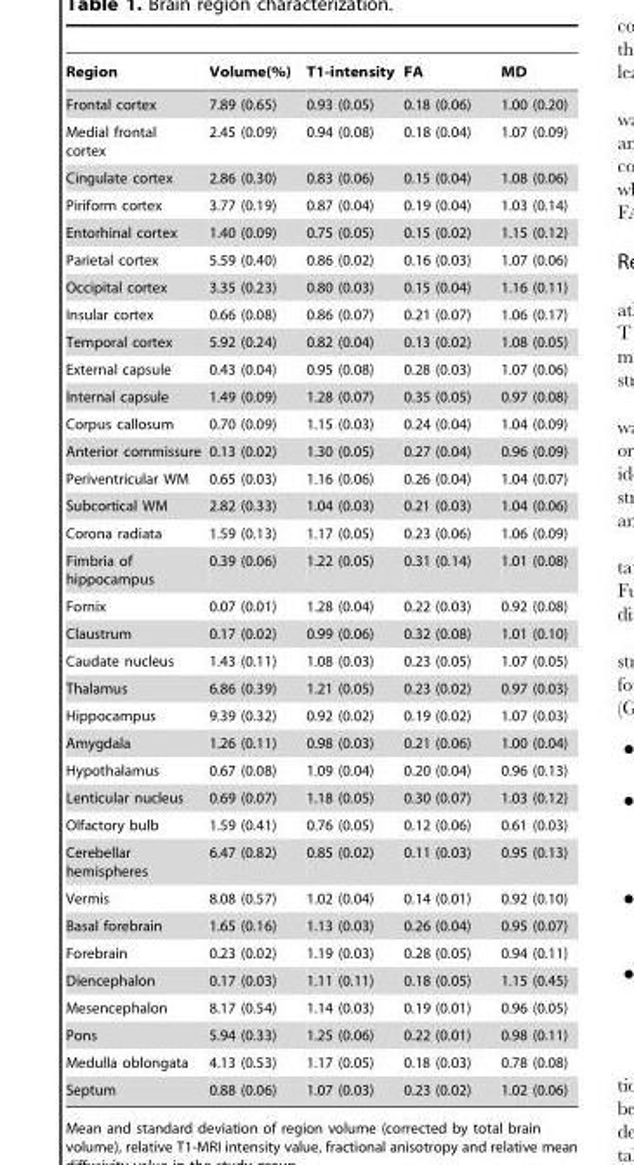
<table><thead><tr><td>Region</td><td>Volume(%)</td><td>T1-intensity</td><td>FA</td><td>MD</td></tr></thead><tbody><tr><td>Frontal cortex</td><td>7.89 (0.65)</td><td>0.93 (0.05)</td><td>0.18 (0.06)</td><td>1.00 (0.20)</td></tr><tr><td>Medial frontal cortex</td><td>2.45 (0.09)</td><td>0.94 (0.08)</td><td>0.18 (0.04)</td><td>1.07 (0.09)</td></tr><tr><td>Cingulate cortex</td><td>2.86 (0.30)</td><td>0.83 (0.06)</td><td>0.15 (0.04)</td><td>1.08 (0.06)</td></tr><tr><td>Piriform cortex</td><td>3.77 (0.19)</td><td>0.87 (0.04)</td><td>0.19 (0.04)</td><td>1.03 (0.14)</td></tr><tr><td>Entorhinal cortex</td><td>1.40 (0.09)</td><td>0.75 (0.05)</td><td>0.15 (0.02)</td><td>1.15 (0.12)</td></tr><tr><td>Parietal cortex</td><td>5.59 (0.40)</td><td>0.86 (0.02)</td><td>0.16 (0.03)</td><td>1.07 (0.06)</td></tr><tr><td>Occipital cortex</td><td>3.35 (0.23)</td><td>0.80 (0.03)</td><td>0.15 (0.04)</td><td>1.16 (0.11)</td></tr><tr><td>Insular cortex</td><td>0.66 (0.08)</td><td>0.86 (0.07)</td><td>0.21 (0.07)</td><td>1.06 (0.17)</td></tr><tr><td>Temporal cortex</td><td>5.92 (0.24)</td><td>0.82 (0.04)</td><td>0.13 (0.02)</td><td>1.08 (0.05)</td></tr><tr><td>External capsule</td><td>0.43 (0.04)</td><td>0.95 (0.08)</td><td>0.28 (0.03)</td><td>1.07 (0.06)</td></tr><tr><td>Internal capsule</td><td>1.49 (0.09)</td><td>1.28 (0.07)</td><td>0.35 (0.05)</td><td>0.97 (0.08)</td></tr><tr><td>Corpus callosum</td><td>0.70 (0.09)</td><td>1.15 (0.03)</td><td>0.24 (0.04)</td><td>1.04 (0.09)</td></tr><tr><td>Anterior commissure</td><td>0.13 (0.02)</td><td>1.30 (0.05)</td><td>0.27 (0.04)</td><td>0.96 (0.09)</td></tr><tr><td>Periventricular WM</td><td>0.65 (0.03)</td><td>1.16 (0.06)</td><td>0.26 (0.04)</td><td>1.04 (0.07)</td></tr><tr><td>Subcortical WM</td><td>2.82 (0.33)</td><td>1.04 (0.03)</td><td>0.21 (0.03)</td><td>1.04 (0.06)</td></tr><tr><td>Corona radiata</td><td>1.59 (0.13)</td><td>1.17 (0.05)</td><td>0.23 (0.06)</td><td>1.06 (0.09)</td></tr><tr><td>Fimbria of hippocampus</td><td>0.39 (0.06)</td><td>1.22 (0.05)</td><td>0.31 (0.14)</td><td>1.01 (0.08)</td></tr><tr><td>Fornix</td><td>0.07 (0.01)</td><td>1.28 (0.04)</td><td>0.22 (0.03)</td><td>0.92 (0.08)</td></tr><tr><td>Claustrum</td><td>0.17 (0.02)</td><td>0.99 (0.06)</td><td>0.32 (0.08)</td><td>1.01 (0.10)</td></tr><tr><td>Caudate nucleus</td><td>1.43 (0.11)</td><td>1.08 (0.03)</td><td>0.23 (0.05)</td><td>1.07 (0.05)</td></tr><tr><td>Thalamus</td><td>6.86 (0.39)</td><td>1.21 (0.05)</td><td>0.23 (0.02)</td><td>0.97 (0.03)</td></tr><tr><td>Hippocampus</td><td>9.39 (0.32)</td><td>0.92 (0.02)</td><td>0.19 (0.02)</td><td>1.07 (0.03)</td></tr><tr><td>Amygdala</td><td>1.26 (0.11)</td><td>0.98 (0.03)</td><td>0.21 (0.06)</td><td>1.00 (0.04)</td></tr><tr><td>Hypothalamus</td><td>0.67 (0.08)</td><td>1.09 (0.04)</td><td>0.20 (0.04)</td><td>0.96 (0.13)</td></tr><tr><td>Lenticular nucleus</td><td>0.69 (0.07)</td><td>1.18 (0.05)</td><td>0.30 (0.07)</td><td>1.03 (0.12)</td></tr><tr><td>Olfactory bulb</td><td>1.59 (0.41)</td><td>0.76 (0.05)</td><td>0.12 (0.06)</td><td>0.61 (0.03)</td></tr><tr><td>Cerebellar hemispheres</td><td>6.47 (0.82)</td><td>0.85 (0.02)</td><td>0.11 (0.03)</td><td>0.95 (0.13)</td></tr><tr><td>Vermis</td><td>8.08 (0.57)</td><td>1.02 (0.04)</td><td>0.14 (0.01)</td><td>0.92 (0.10)</td></tr><tr><td>Basal forebrain</td><td>1.65 (0.16)</td><td>1.13 (0.03)</td><td>0.26 (0.04)</td><td>0.95 (0.07)</td></tr><tr><td>Forebrain</td><td>0.23 (0.02)</td><td>1.19 (0.03)</td><td>0.28 (0.05)</td><td>0.94 (0.11)</td></tr><tr><td>Diencephalon</td><td>0.17 (0.03)</td><td>1.11 (0.11)</td><td>0.18 (0.05)</td><td>1.15 (0.45)</td></tr><tr><td>Mesencephalon</td><td>8.17 (0.54)</td><td>1.14 (0.03)</td><td>0.19 (0.01)</td><td>0.96 (0.05)</td></tr><tr><td>Pons</td><td>5.94 (0.33)</td><td>1.25 (0.06)</td><td>0.22 (0.01)</td><td>0.98 (0.11)</td></tr><tr><td>Medulla oblongata</td><td>4.13 (0.53)</td><td>1.17 (0.05)</td><td>0.18 (0.03)</td><td>0.78 (0.08)</td></tr><tr><td>Septum</td><td>0.88 (0.06)</td><td>1.07 (0.03)</td><td>0.23 (0.02)</td><td>1.02 (0.06)</td></tr></tbody></table>